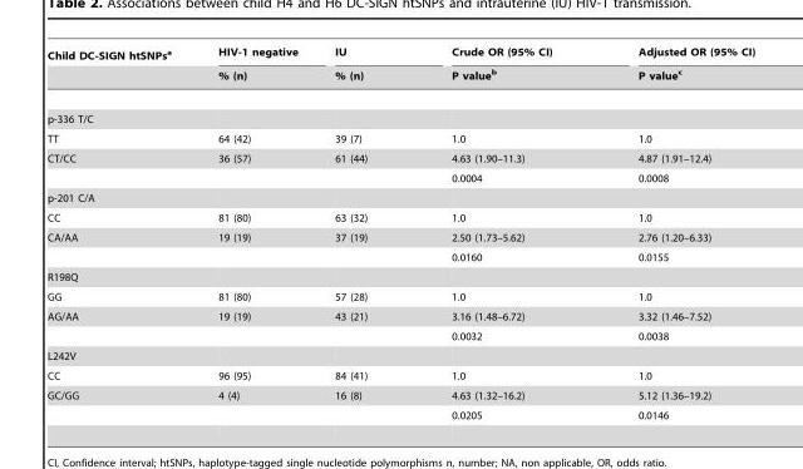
<table><thead><tr><td rowspan="2">Child DC-SIGN htSNPs<sup>a</sup></td><td rowspan="2">HIV-1 negative % (n)</td><td rowspan="2">IU % (n)</td><td rowspan="2">Crude OR (95% CI) P value<sup>b</sup></td><td rowspan="2">Adjusted OR (95% CI) P value<sup>c</sup></td></tr><tr></tr></thead><tbody><tr><td colspan="5">p-336 T/C</td></tr><tr><td>TT</td><td>64 (42)</td><td>39 (7)</td><td>1.0</td><td>1.0</td></tr><tr><td rowspan="2">CT/CC</td><td>36 (57)</td><td>61 (44)</td><td>4.63 (1.90–11.3)</td><td>4.87 (1.91–12.4)</td></tr><tr><td></td><td></td><td>0.0004</td><td>0.0008</td></tr><tr><td colspan="5">p-201 C/A</td></tr><tr><td>CC</td><td>81 (80)</td><td>63 (32)</td><td>1.0</td><td>1.0</td></tr><tr><td rowspan="2">CA/AA</td><td>19 (19)</td><td>37 (19)</td><td>2.50 (1.73–5.62)</td><td>2.76 (1.20–6.33)</td></tr><tr><td></td><td></td><td>0.0160</td><td>0.0155</td></tr><tr><td colspan="5">R198Q</td></tr><tr><td>GG</td><td>81 (80)</td><td>57 (28)</td><td>1.0</td><td>1.0</td></tr><tr><td rowspan="2">AG/AA</td><td>19 (19)</td><td>43 (21)</td><td>3.16 (1.48–6.72)</td><td>3.32 (1.46–7.52)</td></tr><tr><td></td><td></td><td>0.0032</td><td>0.0038</td></tr><tr><td colspan="5">L242V</td></tr><tr><td>CC</td><td>96 (95)</td><td>84 (41)</td><td>1.0</td><td>1.0</td></tr><tr><td rowspan="2">GC/GG</td><td>4 (4)</td><td>16 (8)</td><td>4.63 (1.32–16.2)</td><td>5.12 (1.36–19.2)</td></tr><tr><td></td><td></td><td>0.0205</td><td>0.0146</td></tr></tbody></table>